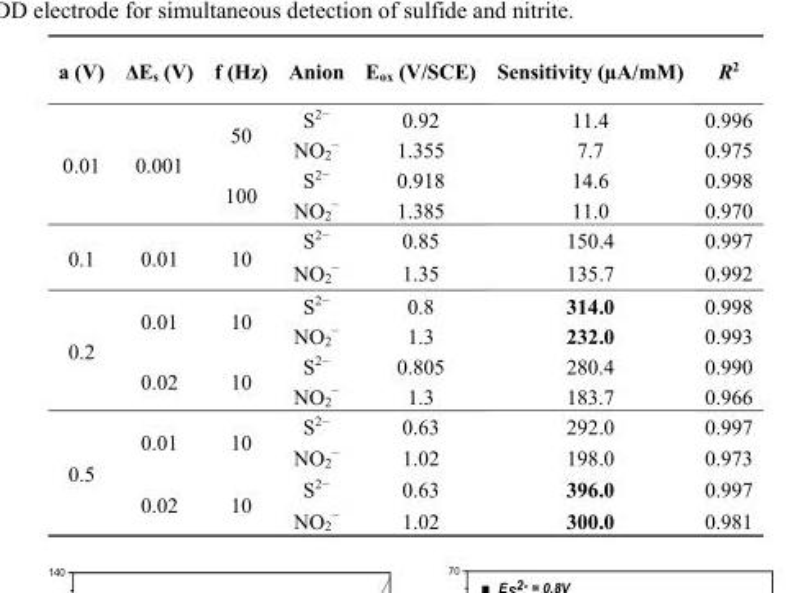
<table><thead><tr><td>a (V)</td><td>ΔE<sub>s</sub> (V)</td><td>f (Hz)</td><td>Anion</td><td>E<sub>ox</sub> (V/SCE)</td><td>Sensitivity (µA/mM)</td><td>R<sup>2</sup></td></tr></thead><tbody><tr><td rowspan="4">0.01</td><td rowspan="4">0.001</td><td rowspan="2">50</td><td>S<sup>2−</sup></td><td>0.92</td><td>11.4</td><td>0.996</td></tr><tr><td>NO<sub>2</sub><sup>−</sup></td><td>1.355</td><td>7.7</td><td>0.975</td></tr><tr><td rowspan="2">100</td><td>S<sup>2−</sup></td><td>0.918</td><td>14.6</td><td>0.998</td></tr><tr><td>NO<sub>2</sub><sup>−</sup></td><td>1.385</td><td>11.0</td><td>0.970</td></tr><tr><td rowspan="2">0.1</td><td rowspan="2">0.01</td><td rowspan="2">10</td><td>S<sup>2−</sup></td><td>0.85</td><td>150.4</td><td>0.997</td></tr><tr><td>NO<sub>2</sub><sup>−</sup></td><td>1.35</td><td>135.7</td><td>0.992</td></tr><tr><td rowspan="4">0.2</td><td rowspan="2">0.01</td><td rowspan="2">10</td><td>S<sup>2−</sup></td><td>0.8</td><td>314.0</td><td>0.998</td></tr><tr><td>NO<sub>2</sub><sup>−</sup></td><td>1.3</td><td>232.0</td><td>0.993</td></tr><tr><td rowspan="2">0.02</td><td rowspan="2">10</td><td>S<sup>2−</sup></td><td>0.805</td><td>280.4</td><td>0.990</td></tr><tr><td>NO<sub>2</sub><sup>−</sup></td><td>1.3</td><td>183.7</td><td>0.966</td></tr><tr><td rowspan="4">0.5</td><td rowspan="2">0.01</td><td rowspan="2">10</td><td>S<sup>2−</sup></td><td>0.63</td><td>292.0</td><td>0.997</td></tr><tr><td>NO<sub>2</sub><sup>−</sup></td><td>1.02</td><td>198.0</td><td>0.973</td></tr><tr><td rowspan="2">0.02</td><td rowspan="2">10</td><td>S<sup>2−</sup></td><td>0.63</td><td>396.0</td><td>0.997</td></tr><tr><td>NO<sub>2</sub><sup>−</sup></td><td>1.02</td><td>300.0</td><td>0.981</td></tr></tbody></table>